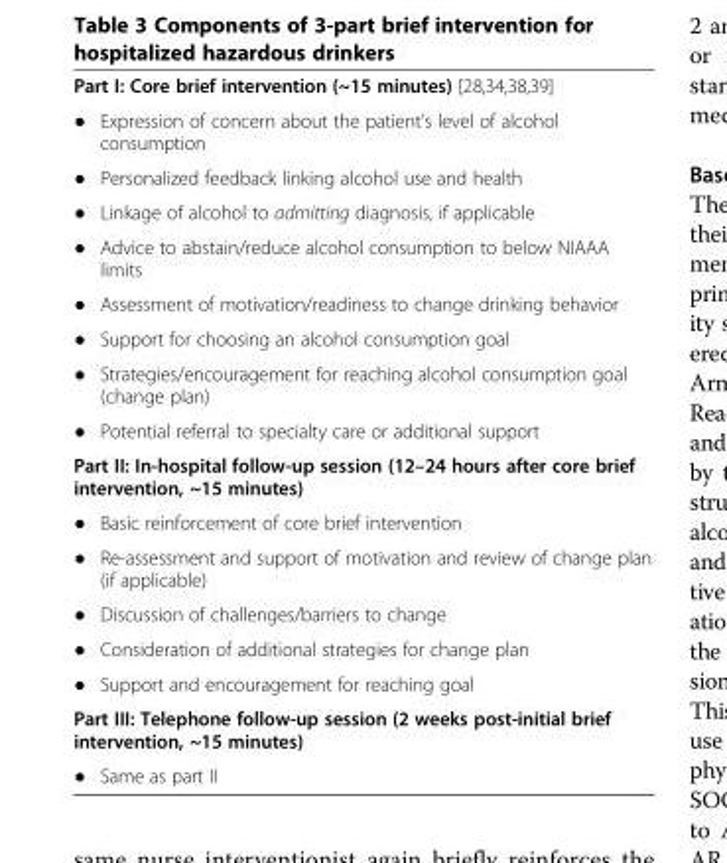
<table><tbody><tr><td colspan="2">Part I: Core brief intervention (~15 minutes) [28,34,38,39]</td></tr><tr><td>●</td><td>Expression of concern about the patient’s level of alcohol consumption</td></tr><tr><td>●</td><td>Personalized feedback linking alcohol use and health</td></tr><tr><td>●</td><td>Linkage of alcohol to admitting diagnosis, if applicable</td></tr><tr><td>●</td><td>Advice to abstain/reduce alcohol consumption to below NIAAA limits</td></tr><tr><td>●</td><td>Assessment of motivation/readiness to change drinking behavior</td></tr><tr><td>●</td><td>Support for choosing an alcohol consumption goal</td></tr><tr><td>●</td><td>Strategies/encouragement for reaching alcohol consumption goal (change plan)</td></tr><tr><td>●</td><td>Potential referral to specialty care or additional support</td></tr><tr><td colspan="2">Part II: In-hospital follow-up session (12–24 hours after core brief intervention, ~15 minutes)</td></tr><tr><td>●</td><td>Basic reinforcement of core brief intervention</td></tr><tr><td>●</td><td>Re-assessment and support of motivation and review of change plan (if applicable)</td></tr><tr><td>●</td><td>Discussion of challenges/barriers to change</td></tr><tr><td>●</td><td>Consideration of additional strategies for change plan</td></tr><tr><td>●</td><td>Support and encouragement for reaching goal</td></tr><tr><td colspan="2">Part III: Telephone follow-up session (2 weeks post-initial brief intervention, ~15 minutes)</td></tr><tr><td>●</td><td>Same as part II</td></tr></tbody></table>